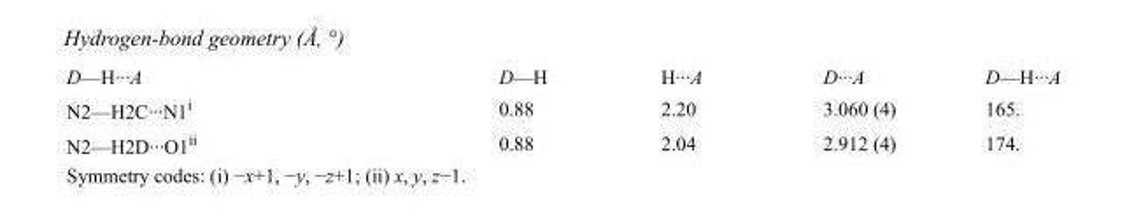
<table><tbody><tr><td>D—H···A</td><td>D—H</td><td>H···A</td><td>D···A</td><td>D—H···A</td></tr><tr><td>N2—H2C···N1<sup>i</sup></td><td>0.88</td><td>2.20</td><td>3.060 (4)</td><td>165.</td></tr><tr><td>N2—H2D···O1<sup>ii</sup></td><td>0.88</td><td>2.04</td><td>2.912 (4)</td><td>174.</td></tr></tbody></table>